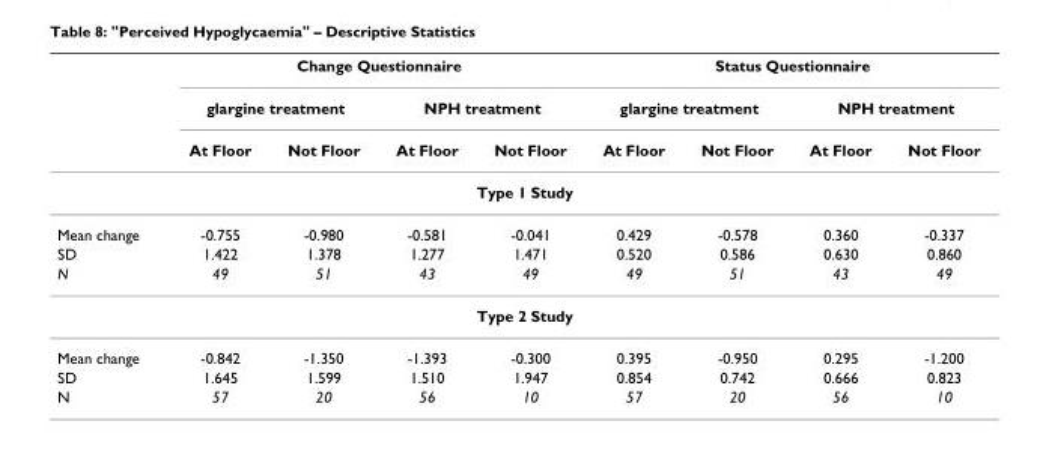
<table><thead><tr><td rowspan="3"></td><td colspan="4">Change Questionnaire</td><td colspan="4">Status Questionnaire</td></tr><tr><td colspan="2">glargine treatment</td><td colspan="2">NPH treatment</td><td colspan="2">glargine treatment</td><td colspan="2">NPH treatment</td></tr><tr><td>At Floor</td><td>Not Floor</td><td>At Floor</td><td>Not Floor</td><td>At Floor</td><td>Not Floor</td><td>At Floor</td><td>Not Floor</td></tr></thead><tbody><tr><td colspan="9">Type 1 Study</td></tr><tr><td>Mean change</td><td>-0.755</td><td>-0.980</td><td>-0.581</td><td>-0.041</td><td>0.429</td><td>-0.578</td><td>0.360</td><td>-0.337</td></tr><tr><td>SD</td><td>1.422</td><td>1.378</td><td>1.277</td><td>1.471</td><td>0.520</td><td>0.586</td><td>0.630</td><td>0.860</td></tr><tr><td>N</td><td>49</td><td>51</td><td>43</td><td>49</td><td>49</td><td>51</td><td>43</td><td>49</td></tr><tr><td colspan="9">Type 2 Study</td></tr><tr><td>Mean change</td><td>-0.842</td><td>-1.350</td><td>-1.393</td><td>-0.300</td><td>0.395</td><td>-0.950</td><td>0.295</td><td>-1.200</td></tr><tr><td>SD</td><td>1.645</td><td>1.599</td><td>1.510</td><td>1.947</td><td>0.854</td><td>0.742</td><td>0.666</td><td>0.823</td></tr><tr><td>N</td><td>57</td><td>20</td><td>56</td><td>10</td><td>57</td><td>20</td><td>56</td><td>10</td></tr></tbody></table>